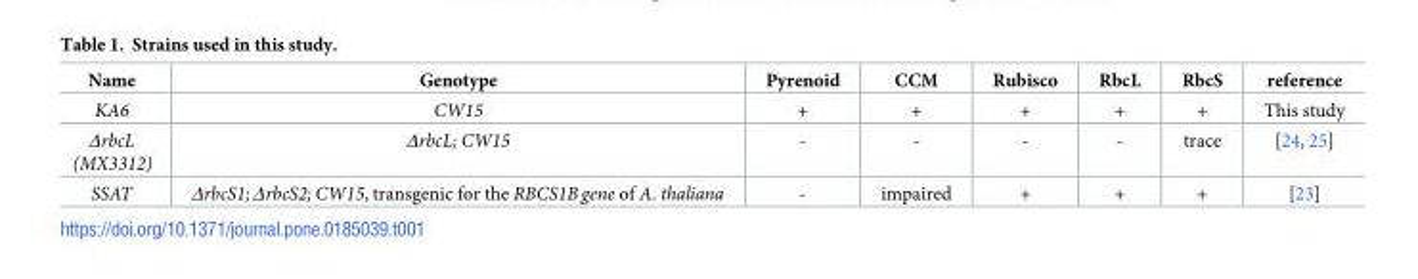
<table><thead><tr><td>Name</td><td>Genotype</td><td>Pyrenoid</td><td>CCM</td><td>Rubisco</td><td>RbcL</td><td>RbcS</td><td>reference</td></tr></thead><tbody><tr><td>KA6</td><td>CW15</td><td>+</td><td>+</td><td>+</td><td>+</td><td>+</td><td>This study</td></tr><tr><td>ΔrbcL (MX3312)</td><td>ΔrbcL; CW15</td><td>-</td><td>-</td><td>-</td><td>-</td><td>trace</td><td>[24, 25]</td></tr><tr><td>SSAT</td><td>ΔrbcS1; ΔrbcS2; CW15, transgenic for the RBCS1B gene of A. thaliana</td><td>-</td><td>impaired</td><td>+</td><td>+</td><td>+</td><td>[23]</td></tr></tbody></table>